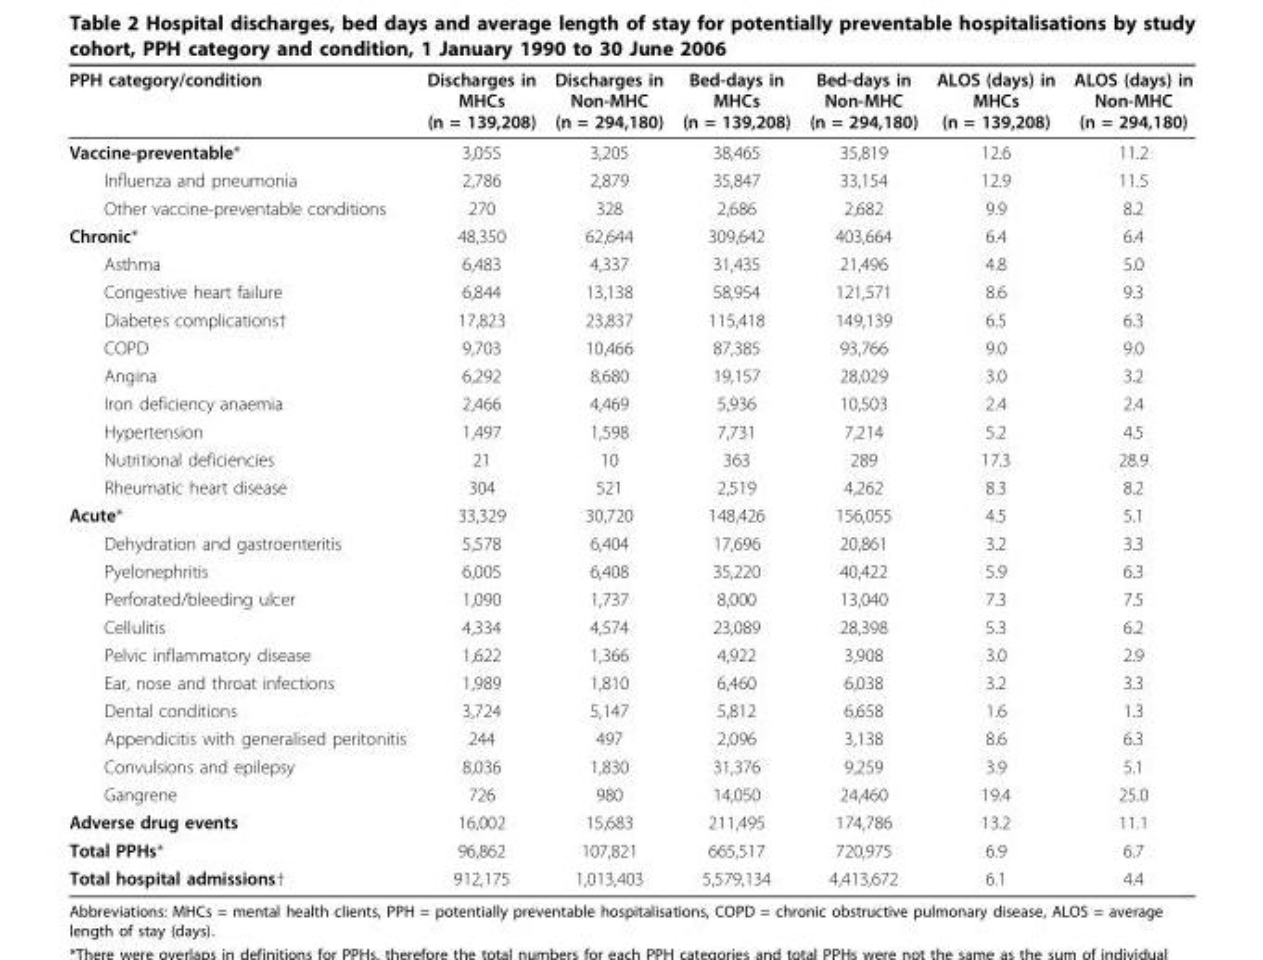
<table><thead><tr><td>PPH category/condition</td><td>Discharges in MHCs (n = 139,208)</td><td>Discharges in Non-MHC (n = 294,180)</td><td>Bed-days in MHCs (n = 139,208)</td><td>Bed-days in Non-MHC (n = 294,180)</td><td>ALOS (days) in MHCs (n = 139,208)</td><td>ALOS (days) in Non-MHC (n = 294,180)</td></tr></thead><tbody><tr><td>Vaccine-preventable*</td><td>3,055</td><td>3,205</td><td>38,465</td><td>35,819</td><td>12.6</td><td>11.2</td></tr><tr><td>Influenza and pneumonia</td><td>2,786</td><td>2,879</td><td>35,847</td><td>33,154</td><td>12.9</td><td>11.5</td></tr><tr><td>Other vaccine-preventable conditions</td><td>270</td><td>328</td><td>2,686</td><td>2,682</td><td>9.9</td><td>8.2</td></tr><tr><td>Chronic*</td><td>48,350</td><td>62,644</td><td>309,642</td><td>403,664</td><td>6.4</td><td>6.4</td></tr><tr><td>Asthma</td><td>6,483</td><td>4,337</td><td>31,435</td><td>21,496</td><td>4.8</td><td>5.0</td></tr><tr><td>Congestive heart failure</td><td>6,844</td><td>13,138</td><td>58,954</td><td>121,571</td><td>8.6</td><td>9.3</td></tr><tr><td>Diabetes complications†</td><td>17,823</td><td>23,837</td><td>115,418</td><td>149,139</td><td>6.5</td><td>6.3</td></tr><tr><td>COPD</td><td>9,703</td><td>10,466</td><td>87,385</td><td>93,766</td><td>9.0</td><td>9.0</td></tr><tr><td>Angina</td><td>6,292</td><td>8,680</td><td>19,157</td><td>28,029</td><td>3.0</td><td>3.2</td></tr><tr><td>Iron deficiency anaemia</td><td>2,466</td><td>4,469</td><td>5,936</td><td>10,503</td><td>2.4</td><td>2.4</td></tr><tr><td>Hypertension</td><td>1,497</td><td>1,598</td><td>7,731</td><td>7,214</td><td>5.2</td><td>4.5</td></tr><tr><td>Nutritional deficiencies</td><td>21</td><td>10</td><td>363</td><td>289</td><td>17.3</td><td>28.9</td></tr><tr><td>Rheumatic heart disease</td><td>304</td><td>521</td><td>2,519</td><td>4,262</td><td>8.3</td><td>8.2</td></tr><tr><td>Acute*</td><td>33,329</td><td>30,720</td><td>148,426</td><td>156,055</td><td>4.5</td><td>5.1</td></tr><tr><td>Dehydration and gastroenteritis</td><td>5,578</td><td>6,404</td><td>17,696</td><td>20,861</td><td>3.2</td><td>3.3</td></tr><tr><td>Pyelonephritis</td><td>6,005</td><td>6,408</td><td>35,220</td><td>40,422</td><td>5.9</td><td>6.3</td></tr><tr><td>Perforated/bleeding ulcer</td><td>1,090</td><td>1,737</td><td>8,000</td><td>13,040</td><td>7.3</td><td>7.5</td></tr><tr><td>Cellulitis</td><td>4,334</td><td>4,574</td><td>23,089</td><td>28,398</td><td>5.3</td><td>6.2</td></tr><tr><td>Pelvic inflammatory disease</td><td>1,622</td><td>1,366</td><td>4,922</td><td>3,908</td><td>3.0</td><td>2.9</td></tr><tr><td>Ear, nose and throat infections</td><td>1,989</td><td>1,810</td><td>6,460</td><td>6,038</td><td>3.2</td><td>3.3</td></tr><tr><td>Dental conditions</td><td>3,724</td><td>5,147</td><td>5,812</td><td>6,658</td><td>1.6</td><td>1.3</td></tr><tr><td>Appendicitis with generalised peritonitis</td><td>244</td><td>497</td><td>2,096</td><td>3,138</td><td>8.6</td><td>6.3</td></tr><tr><td>Convulsions and epilepsy</td><td>8,036</td><td>1,830</td><td>31,376</td><td>9,259</td><td>3.9</td><td>5.1</td></tr><tr><td>Gangrene</td><td>726</td><td>980</td><td>14,050</td><td>24,460</td><td>19.4</td><td>25.0</td></tr><tr><td>Adverse drug events</td><td>16,002</td><td>15,683</td><td>211,495</td><td>174,786</td><td>13.2</td><td>11.1</td></tr><tr><td>Total PPHs*</td><td>96,862</td><td>107,821</td><td>665,517</td><td>720,975</td><td>6.9</td><td>6.7</td></tr><tr><td>Total hospital admissions†</td><td>912,175</td><td>1,013,403</td><td>5,579,134</td><td>4,413,672</td><td>6.1</td><td>4.4</td></tr></tbody></table>